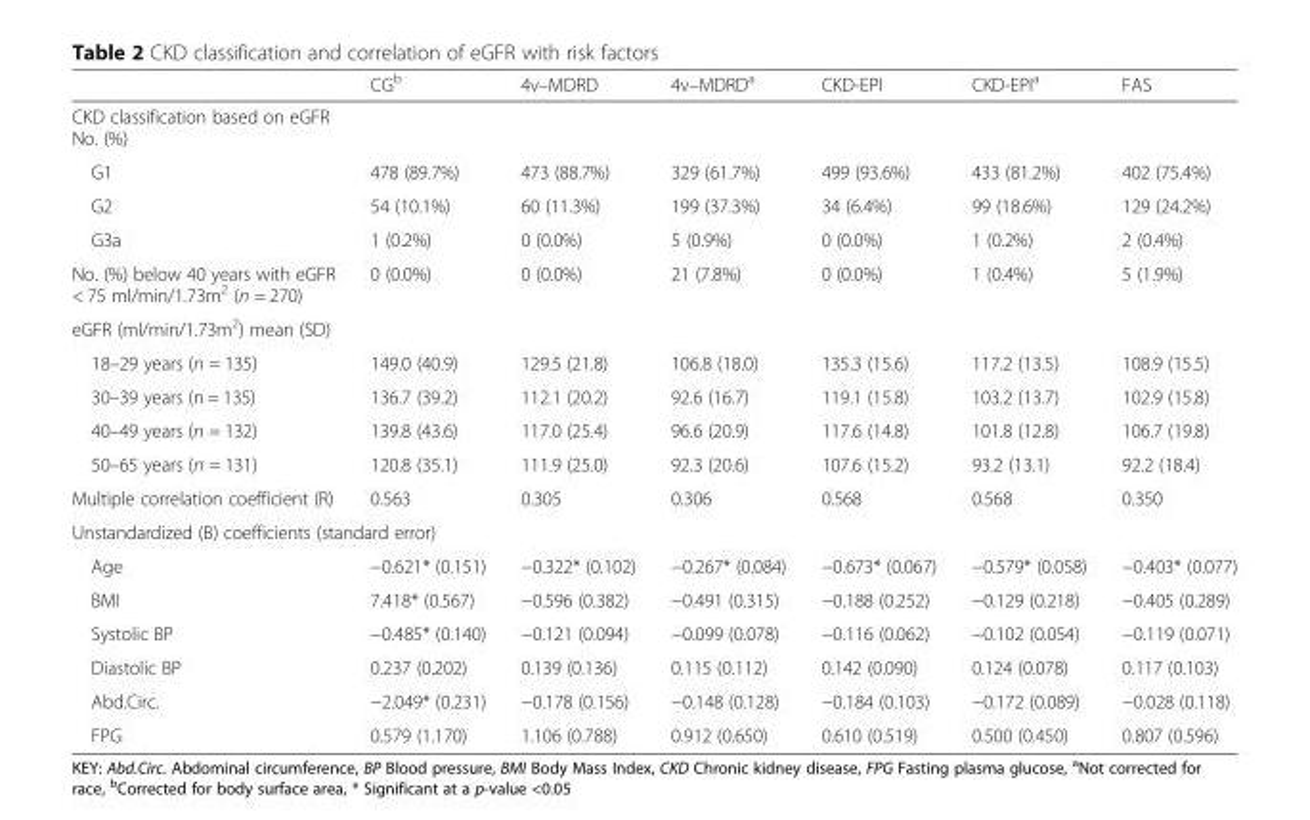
<table><thead><tr><td></td><td>CG<sup>b</sup></td><td>4v–MDRD</td><td>4v–MDRD<sup>a</sup></td><td>CKD-EPI</td><td>CKD-EPI<sup>a</sup></td><td>FAS</td></tr></thead><tbody><tr><td colspan="7">CKD classification based on eGFR No. (%)</td></tr><tr><td>G1</td><td>478 (89.7%)</td><td>473 (88.7%)</td><td>329 (61.7%)</td><td>499 (93.6%)</td><td>433 (81.2%)</td><td>402 (75.4%)</td></tr><tr><td>G2</td><td>54 (10.1%)</td><td>60 (11.3%)</td><td>199 (37.3%)</td><td>34 (6.4%)</td><td>99 (18.6%)</td><td>129 (24.2%)</td></tr><tr><td>G3a</td><td>1 (0.2%)</td><td>0 (0.0%)</td><td>5 (0.9%)</td><td>0 (0.0%)</td><td>1 (0.2%)</td><td>2 (0.4%)</td></tr><tr><td>No. (%) below 40 years with eGFR &lt; 75 ml/min/1.73m<sup>2</sup> (n = 270)</td><td>0 (0.0%)</td><td>0 (0.0%)</td><td>21 (7.8%)</td><td>0 (0.0%)</td><td>1 (0.4%)</td><td>5 (1.9%)</td></tr><tr><td colspan="7">eGFR (ml/min/1.73m<sup>2</sup>) mean (SD)</td></tr><tr><td>18–29 years (n = 135)</td><td>149.0 (40.9)</td><td>129.5 (21.8)</td><td>106.8 (18.0)</td><td>135.3 (15.6)</td><td>117.2 (13.5)</td><td>108.9 (15.5)</td></tr><tr><td>30–39 years (n = 135)</td><td>136.7 (39.2)</td><td>112.1 (20.2)</td><td>92.6 (16.7)</td><td>119.1 (15.8)</td><td>103.2 (13.7)</td><td>102.9 (15.8)</td></tr><tr><td>40–49 years (n = 132)</td><td>139.8 (43.6)</td><td>117.0 (25.4)</td><td>96.6 (20.9)</td><td>117.6 (14.8)</td><td>101.8 (12.8)</td><td>106.7 (19.8)</td></tr><tr><td>50–65 years (n = 131)</td><td>120.8 (35.1)</td><td>111.9 (25.0)</td><td>92.3 (20.6)</td><td>107.6 (15.2)</td><td>93.2 (13.1)</td><td>92.2 (18.4)</td></tr><tr><td>Multiple correlation coefficient (R)</td><td>0.563</td><td>0.305</td><td>0.306</td><td>0.568</td><td>0.568</td><td>0.350</td></tr><tr><td colspan="7">Unstandardized (B) coefficients (standard error)</td></tr><tr><td>Age</td><td>−0.621* (0.151)</td><td>−0.322* (0.102)</td><td>−0.267* (0.084)</td><td>−0.673* (0.067)</td><td>−0.579* (0.058)</td><td>−0.403* (0.077)</td></tr><tr><td>BMI</td><td>7.418* (0.567)</td><td>−0.596 (0.382)</td><td>−0.491 (0.315)</td><td>−0.188 (0.252)</td><td>−0.129 (0.218)</td><td>−0.405 (0.289)</td></tr><tr><td>Systolic BP</td><td>−0.485* (0.140)</td><td>−0.121 (0.094)</td><td>−0.099 (0.078)</td><td>−0.116 (0.062)</td><td>−0.102 (0.054)</td><td>−0.119 (0.071)</td></tr><tr><td>Diastolic BP</td><td>0.237 (0.202)</td><td>0.139 (0.136)</td><td>0.115 (0.112)</td><td>0.142 (0.090)</td><td>0.124 (0.078)</td><td>0.117 (0.103)</td></tr><tr><td>Abd.Circ.</td><td>−2.049* (0.231)</td><td>−0.178 (0.156)</td><td>−0.148 (0.128)</td><td>−0.184 (0.103)</td><td>−0.172 (0.089)</td><td>−0.028 (0.118)</td></tr><tr><td>FPG</td><td>0.579 (1.170)</td><td>1.106 (0.788)</td><td>0.912 (0.650)</td><td>0.610 (0.519)</td><td>0.500 (0.450)</td><td>0.807 (0.596)</td></tr></tbody></table>